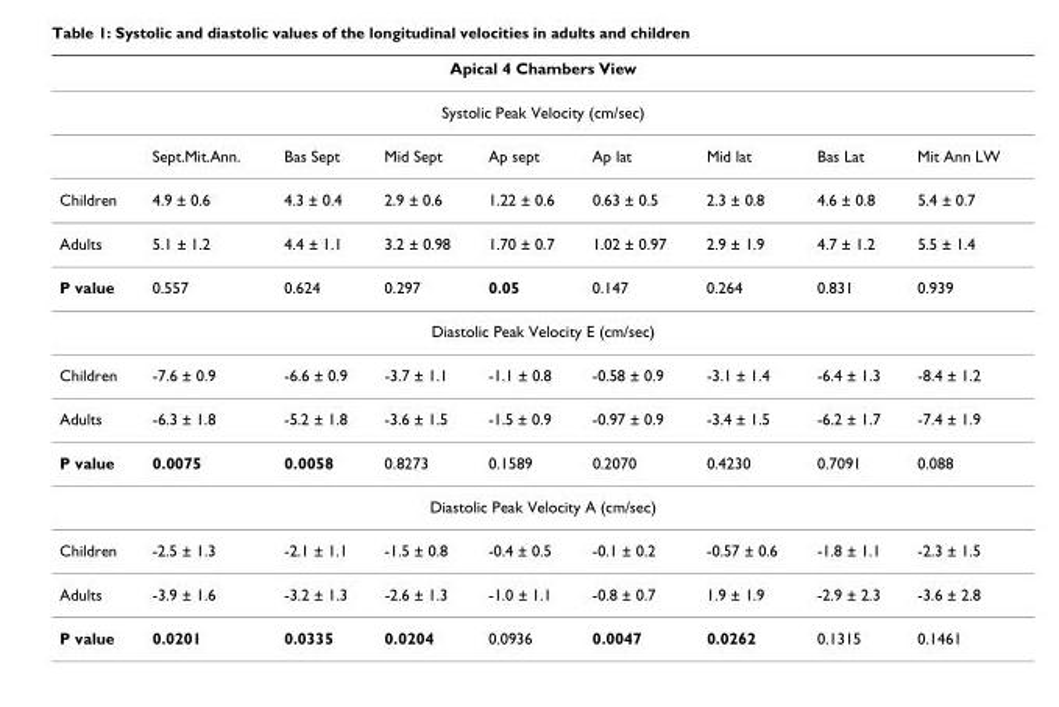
<table><thead><tr><td rowspan="2" colspan="9">Apical 4 Chambers View Systolic Peak Velocity (cm/sec)</td></tr><tr></tr><tr><td></td><td>Sept.Mit.Ann.</td><td>Bas Sept</td><td>Mid Sept</td><td>Ap sept</td><td>Ap lat</td><td>Mid lat</td><td>Bas Lat</td><td>Mit Ann LW</td></tr></thead><tbody><tr><td>Children</td><td>4.9 ± 0.6</td><td>4.3 ± 0.4</td><td>2.9 ± 0.6</td><td>1.22 ± 0.6</td><td>0.63 ± 0.5</td><td>2.3 ± 0.8</td><td>4.6 ± 0.8</td><td>5.4 ± 0.7</td></tr><tr><td>Adults</td><td>5.1 ± 1.2</td><td>4.4 ± 1.1</td><td>3.2 ± 0.98</td><td>1.70 ± 0.7</td><td>1.02 ± 0.97</td><td>2.9 ± 1.9</td><td>4.7 ± 1.2</td><td>5.5 ± 1.4</td></tr><tr><td>P value</td><td>0.557</td><td>0.624</td><td>0.297</td><td>0.05</td><td>0.147</td><td>0.264</td><td>0.831</td><td>0.939</td></tr><tr><td colspan="9">Diastolic Peak Velocity E (cm/sec)</td></tr><tr><td>Children</td><td>-7.6 ± 0.9</td><td>-6.6 ± 0.9</td><td>-3.7 ± 1.1</td><td>-1.1 ± 0.8</td><td>-0.58 ± 0.9</td><td>-3.1 ± 1.4</td><td>-6.4 ± 1.3</td><td>-8.4 ± 1.2</td></tr><tr><td>Adults</td><td>-6.3 ± 1.8</td><td>-5.2 ± 1.8</td><td>-3.6 ± 1.5</td><td>-1.5 ± 0.9</td><td>-0.97 ± 0.9</td><td>-3.4 ± 1.5</td><td>-6.2 ± 1.7</td><td>-7.4 ± 1.9</td></tr><tr><td>P value</td><td>0.0075</td><td>0.0058</td><td>0.8273</td><td>0.1589</td><td>0.2070</td><td>0.4230</td><td>0.7091</td><td>0.088</td></tr><tr><td colspan="9">Diastolic Peak Velocity A (cm/sec)</td></tr><tr><td>Children</td><td>-2.5 ± 1.3</td><td>-2.1 ± 1.1</td><td>-1.5 ± 0.8</td><td>-0.4 ± 0.5</td><td>-0.1 ± 0.2</td><td>-0.57 ± 0.6</td><td>-1.8 ± 1.1</td><td>-2.3 ± 1.5</td></tr><tr><td>Adults</td><td>-3.9 ± 1.6</td><td>-3.2 ± 1.3</td><td>-2.6 ± 1.3</td><td>-1.0 ± 1.1</td><td>-0.8 ± 0.7</td><td>1.9 ± 1.9</td><td>-2.9 ± 2.3</td><td>-3.6 ± 2.8</td></tr><tr><td>P value</td><td>0.0201</td><td>0.0335</td><td>0.0204</td><td>0.0936</td><td>0.0047</td><td>0.0262</td><td>0.1315</td><td>0.1461</td></tr></tbody></table>